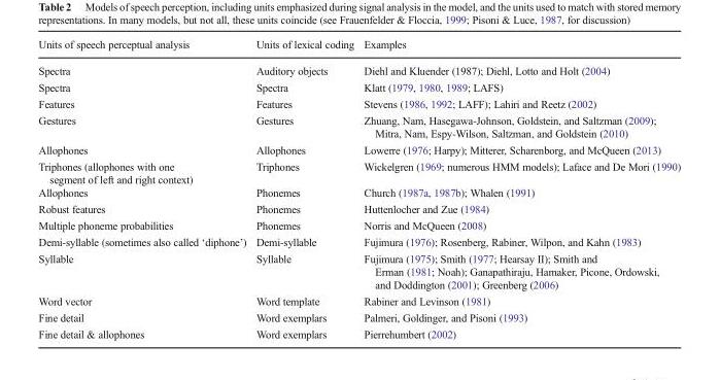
<table><thead><tr><td>Units of speech perceptual analysis</td><td>Units of lexical coding</td><td>Examples</td></tr></thead><tbody><tr><td>Spectra</td><td>Auditory objects</td><td>Diehl and Kluender (1987); Diehl, Lotto and Holt (2004)</td></tr><tr><td>Spectra</td><td>Spectra</td><td>Klatt (1979, 1980, 1989; LAFS)</td></tr><tr><td>Features</td><td>Features</td><td>Stevens (1986, 1992; LAFF); Lahiri and Reetz (2002)</td></tr><tr><td>Gestures</td><td>Gestures</td><td>Zhuang, Nam, Hasegawa-Johnson, Goldstein, and Saltzman (2009); Mitra, Nam, Espy-Wilson, Saltzman, and Goldstein (2010)</td></tr><tr><td>Allophones</td><td>Allophones</td><td>Lowerre (1976; Harpy); Mitterer, Scharenborg, and McQueen (2013)</td></tr><tr><td>Triphones (allophones with one segment of left and right context)</td><td>Triphones</td><td>Wickelgren (1969; numerous HMM models); Laface and De Mori (1990)</td></tr><tr><td>Allophones</td><td>Phonemes</td><td>Church (1987a, 1987b); Whalen (1991)</td></tr><tr><td>Robust features</td><td>Phonemes</td><td>Huttenlocher and Zue (1984)</td></tr><tr><td>Multiple phoneme probabilities</td><td>Phonemes</td><td>Norris and McQueen (2008)</td></tr><tr><td>Demi-syllable (sometimes also called ‘diphone’)</td><td>Demi-syllable</td><td>Fujimura (1976); Rosenberg, Rabiner, Wilpon, and Kahn (1983)</td></tr><tr><td>Syllable</td><td>Syllable</td><td>Fujimura (1975); Smith (1977; Hearsay II); Smith and Erman (1981; Noah); Ganapathiraju, Hamaker, Picone, Ordowski, and Doddington (2001); Greenberg (2006)</td></tr><tr><td>Word vector</td><td>Word template</td><td>Rabiner and Levinson (1981)</td></tr><tr><td>Fine detail</td><td>Word exemplars</td><td>Palmeri, Goldinger, and Pisoni (1993)</td></tr><tr><td>Fine detail &amp; allophones</td><td>Word exemplars</td><td>Pierrehumbert (2002)</td></tr></tbody></table>